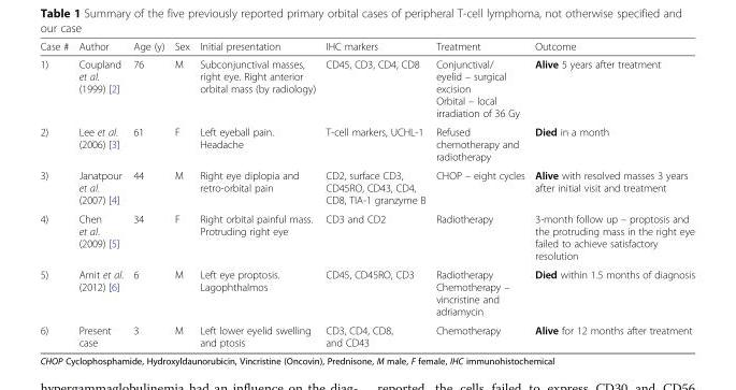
<table><thead><tr><td>Case #</td><td>Author</td><td>Age (y)</td><td>Sex</td><td>Initial presentation</td><td>IHC markers</td><td>Treatment</td><td>Outcome</td></tr></thead><tbody><tr><td>1)</td><td>Coupland et al. (1999) [2]</td><td>76</td><td>M</td><td>Subconjunctival masses, right eye. Right anterior orbital mass (by radiology)</td><td>CD45, CD3, CD4, CD8</td><td>Conjunctival/ eyelid – surgical excision Orbital – local irradiation of 36 Gy</td><td>Alive 5 years after treatment</td></tr><tr><td>2)</td><td>Lee et al. (2006) [3]</td><td>61</td><td>F</td><td>Left eyeball pain. Headache</td><td>T-cell markers, UCHL-1</td><td>Refused chemotherapy and radiotherapy</td><td>Died in a month</td></tr><tr><td>3)</td><td>Janatpour et al. (2007) [4]</td><td>44</td><td>M</td><td>Right eye diplopia and retro-orbital pain</td><td>CD2, surface CD3, CD45RO, CD43, CD4, CD8, TIA-1 granzyme B</td><td>CHOP – eight cycles</td><td>Alive with resolved masses 3 years after initial visit and treatment</td></tr><tr><td>4)</td><td>Chen et al. (2009) [5]</td><td>34</td><td>F</td><td>Right orbital painful mass. Protruding right eye</td><td>CD3 and CD2</td><td>Radiotherapy</td><td>3-month follow up – proptosis and the protruding mass in the right eye failed to achieve satisfactory resolution</td></tr><tr><td>5)</td><td>Amit et al. (2012) [6]</td><td>6</td><td>M</td><td>Left eye proptosis. Lagophthalmos</td><td>CD45, CD45RO, CD3</td><td>Radiotherapy Chemotherapy – vincristine and adriamycin</td><td>Died within 1.5 months of diagnosis</td></tr><tr><td>6)</td><td>Present case</td><td>3</td><td>M</td><td>Left lower eyelid swelling and ptosis</td><td>CD3, CD4, CD8, and CD43</td><td>Chemotherapy</td><td>Alive for 12 months after treatment</td></tr></tbody></table>